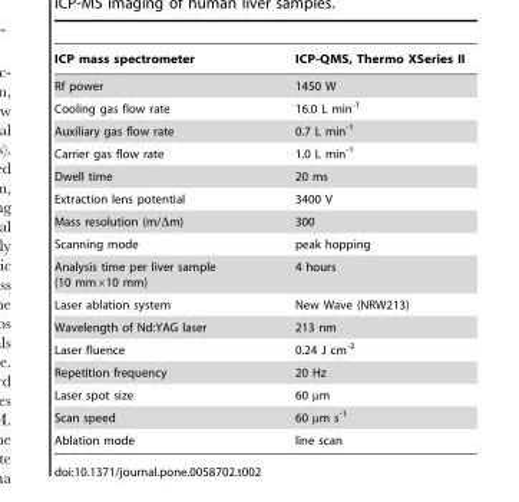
<table><thead><tr><td>ICP mass spectrometer</td><td>ICP-QMS, Thermo XSeries II</td></tr></thead><tbody><tr><td>Rf power</td><td>1450 W</td></tr><tr><td>Cooling gas flow rate</td><td>16.0 L min<sup>-1</sup></td></tr><tr><td>Auxiliary gas flow rate</td><td>0.7 L min<sup>-1</sup></td></tr><tr><td>Carrier gas flow rate</td><td>1.0 L min<sup>-1</sup></td></tr><tr><td>Dwell time</td><td>20 ms</td></tr><tr><td>Extraction lens potential</td><td>3400 V</td></tr><tr><td>Mass resolution (m/Δm)</td><td>300</td></tr><tr><td>Scanning mode</td><td>peak hopping</td></tr><tr><td>Analysis time per liver sample (10 mm×10 mm)</td><td>4 hours</td></tr><tr><td>Laser ablation system</td><td>New Wave (NRW213)</td></tr><tr><td>Wavelength of Nd:YAG laser</td><td>213 nm</td></tr><tr><td>Laser fluence</td><td>0.24 J cm<sup>-2</sup></td></tr><tr><td>Repetition frequency</td><td>20 Hz</td></tr><tr><td>Laser spot size</td><td>60 µm</td></tr><tr><td>Scan speed</td><td>60 µm s<sup>-1</sup></td></tr><tr><td>Ablation mode</td><td>line scan</td></tr></tbody></table>